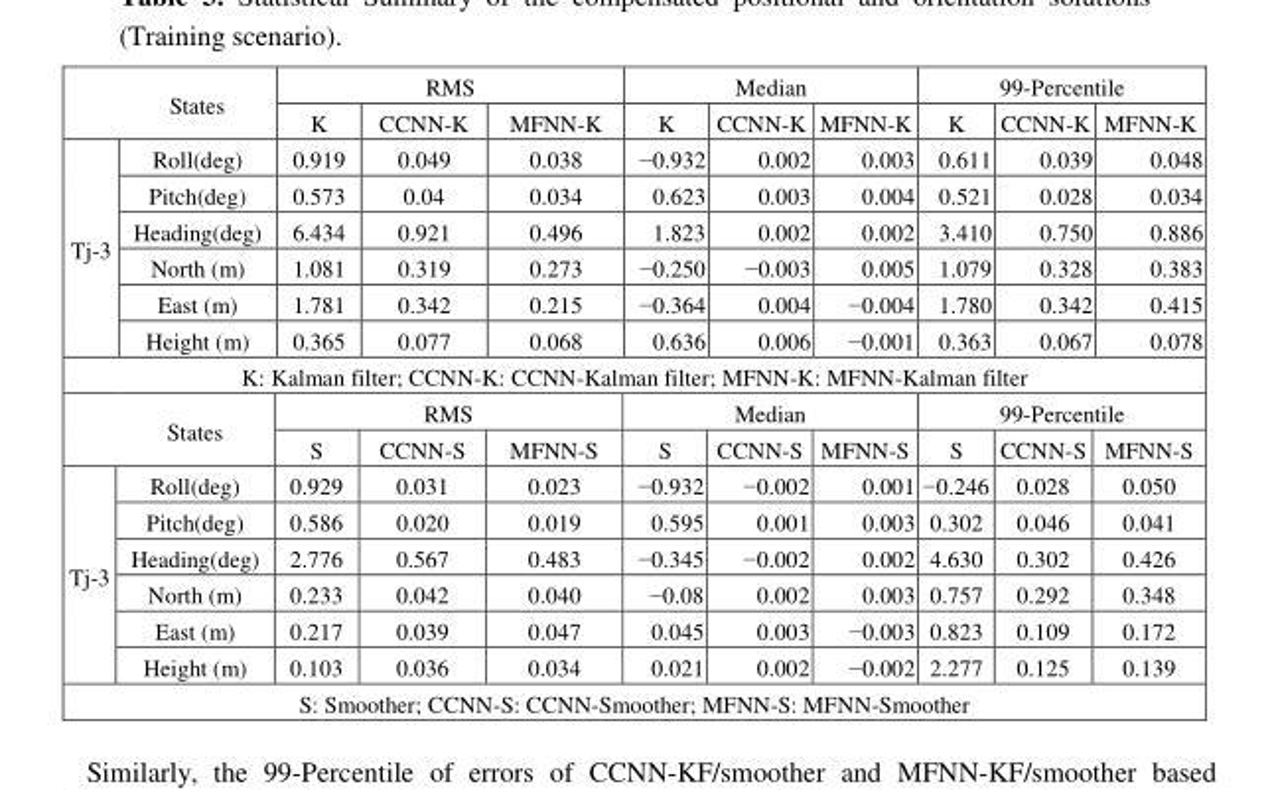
<table><tbody><tr><td rowspan="2" colspan="2">States</td><td colspan="3">RMS</td><td colspan="3">Median</td><td colspan="3">99-Percentile</td></tr><tr><td>K</td><td>CCNN-K</td><td>MFNN-K</td><td>K</td><td>CCNN-K</td><td>MFNN-K</td><td>K</td><td>CCNN-K</td><td>MFNN-K</td></tr><tr><td rowspan="6">Tj-3</td><td>Roll(deg)</td><td>0.919</td><td>0.049</td><td>0.038</td><td>−0.932</td><td>0.002</td><td>0.003</td><td>0.611</td><td>0.039</td><td>0.048</td></tr><tr><td>Pitch(deg)</td><td>0.573</td><td>0.04</td><td>0.034</td><td>0.623</td><td>0.003</td><td>0.004</td><td>0.521</td><td>0.028</td><td>0.034</td></tr><tr><td>Heading(deg)</td><td>6.434</td><td>0.921</td><td>0.496</td><td>1.823</td><td>0.002</td><td>0.002</td><td>3.410</td><td>0.750</td><td>0.886</td></tr><tr><td>North (m)</td><td>1.081</td><td>0.319</td><td>0.273</td><td>−0.250</td><td>−0.003</td><td>0.005</td><td>1.079</td><td>0.328</td><td>0.383</td></tr><tr><td>East (m)</td><td>1.781</td><td>0.342</td><td>0.215</td><td>−0.364</td><td>0.004</td><td>−0.004</td><td>1.780</td><td>0.342</td><td>0.415</td></tr><tr><td>Height (m)</td><td>0.365</td><td>0.077</td><td>0.068</td><td>0.636</td><td>0.006</td><td>−0.001</td><td>0.363</td><td>0.067</td><td>0.078</td></tr><tr><td colspan="11">K: Kalman filter; CCNN-K: CCNN-Kalman filter; MFNN-K: MFNN-Kalman filter</td></tr><tr><td rowspan="2" colspan="2">States</td><td colspan="3">RMS</td><td colspan="3">Median</td><td colspan="3">99-Percentile</td></tr><tr><td>S</td><td>CCNN-S</td><td>MFNN-S</td><td>S</td><td>CCNN-S</td><td>MFNN-S</td><td>S</td><td>CCNN-S</td><td>MFNN-S</td></tr><tr><td rowspan="6">Tj-3</td><td>Roll(deg)</td><td>0.929</td><td>0.031</td><td>0.023</td><td>−0.932</td><td>−0.002</td><td>0.001</td><td>−0.246</td><td>0.028</td><td>0.050</td></tr><tr><td>Pitch(deg)</td><td>0.586</td><td>0.020</td><td>0.019</td><td>0.595</td><td>0.001</td><td>0.003</td><td>0.302</td><td>0.046</td><td>0.041</td></tr><tr><td>Heading(deg)</td><td>2.776</td><td>0.567</td><td>0.483</td><td>−0.345</td><td>−0.002</td><td>0.002</td><td>4.630</td><td>0.302</td><td>0.426</td></tr><tr><td>North (m)</td><td>0.233</td><td>0.042</td><td>0.040</td><td>−0.08</td><td>0.002</td><td>0.003</td><td>0.757</td><td>0.292</td><td>0.348</td></tr><tr><td>East (m)</td><td>0.217</td><td>0.039</td><td>0.047</td><td>0.045</td><td>0.003</td><td>−0.003</td><td>0.823</td><td>0.109</td><td>0.172</td></tr><tr><td>Height (m)</td><td>0.103</td><td>0.036</td><td>0.034</td><td>0.021</td><td>0.002</td><td>−0.002</td><td>2.277</td><td>0.125</td><td>0.139</td></tr><tr><td colspan="11">S: Smoother; CCNN-S: CCNN-Smoother; MFNN-S: MFNN-Smoother</td></tr></tbody></table>